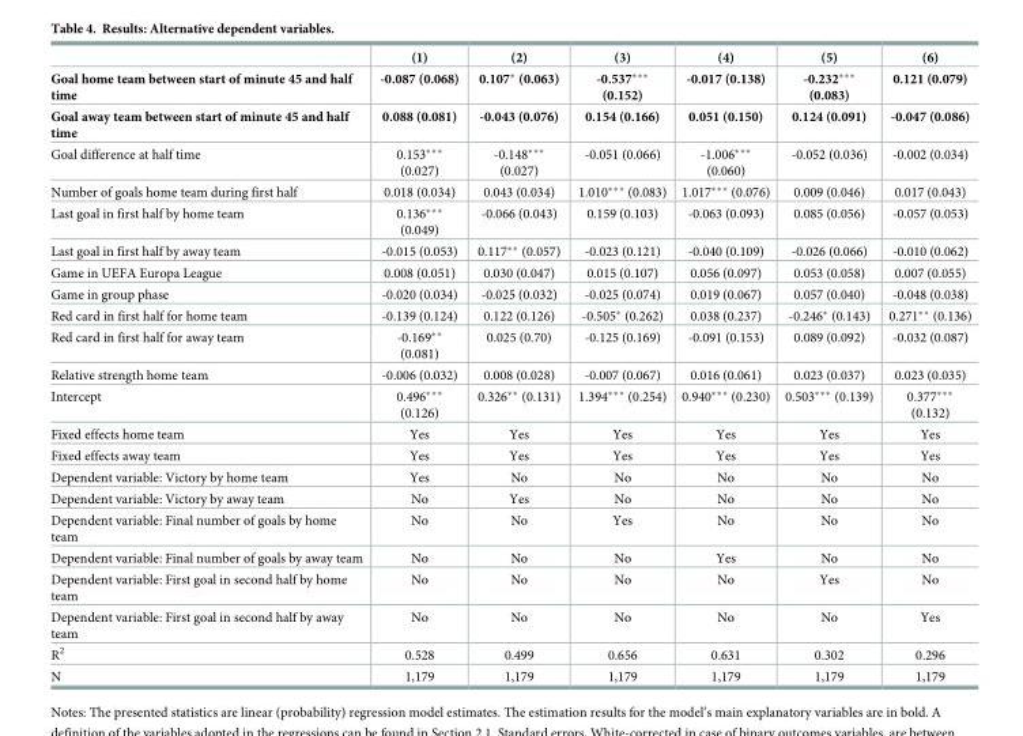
<table><thead><tr><td></td><td>(1)</td><td>(2)</td><td>(3)</td><td>(4)</td><td>(5)</td><td>(6)</td></tr></thead><tbody><tr><td>Goal home team between start of minute 45 and half time</td><td>-0.087 (0.068)</td><td>0.107* (0.063)</td><td>-0.537*** (0.152)</td><td>-0.017 (0.138)</td><td>-0.232*** (0.083)</td><td>0.121 (0.079)</td></tr><tr><td>Goal away team between start of minute 45 and half time</td><td>0.088 (0.081)</td><td>-0.043 (0.076)</td><td>0.154 (0.166)</td><td>0.051 (0.150)</td><td>0.124 (0.091)</td><td>-0.047 (0.086)</td></tr><tr><td>Goal difference at half time</td><td>0.153*** (0.027)</td><td>-0.148*** (0.027)</td><td>-0.051 (0.066)</td><td>-1.006*** (0.060)</td><td>-0.052 (0.036)</td><td>-0.002 (0.034)</td></tr><tr><td>Number of goals home team during first half</td><td>0.018 (0.034)</td><td>0.043 (0.034)</td><td>1.010*** (0.083)</td><td>1.017*** (0.076)</td><td>0.009 (0.046)</td><td>0.017 (0.043)</td></tr><tr><td>Last goal in first half by home team</td><td>0.136*** (0.049)</td><td>-0.066 (0.043)</td><td>0.159 (0.103)</td><td>-0.063 (0.093)</td><td>0.085 (0.056)</td><td>-0.057 (0.053)</td></tr><tr><td>Last goal in first half by away team</td><td>-0.015 (0.053)</td><td>0.117** (0.057)</td><td>-0.023 (0.121)</td><td>-0.040 (0.109)</td><td>-0.026 (0.066)</td><td>-0.010 (0.062)</td></tr><tr><td>Game in UEFA Europa League</td><td>0.008 (0.051)</td><td>0.030 (0.047)</td><td>0.015 (0.107)</td><td>0.056 (0.097)</td><td>0.053 (0.058)</td><td>0.007 (0.055)</td></tr><tr><td>Game in group phase</td><td>-0.020 (0.034)</td><td>-0.025 (0.032)</td><td>-0.025 (0.074)</td><td>0.019 (0.067)</td><td>0.057 (0.040)</td><td>-0.048 (0.038)</td></tr><tr><td>Red card in first half for home team</td><td>-0.139 (0.124)</td><td>0.122 (0.126)</td><td>-0.505* (0.262)</td><td>0.038 (0.237)</td><td>-0.246* (0.143)</td><td>0.271** (0.136)</td></tr><tr><td>Red card in first half for away team</td><td>-0.169** (0.081)</td><td>0.025 (0.70)</td><td>-0.125 (0.169)</td><td>-0.091 (0.153)</td><td>0.089 (0.092)</td><td>-0.032 (0.087)</td></tr><tr><td>Relative strength home team</td><td>-0.006 (0.032)</td><td>0.008 (0.028)</td><td>-0.007 (0.067)</td><td>0.016 (0.061)</td><td>0.023 (0.037)</td><td>0.023 (0.035)</td></tr><tr><td>Intercept</td><td>0.496*** (0.126)</td><td>0.326** (0.131)</td><td>1.394*** (0.254)</td><td>0.940*** (0.230)</td><td>0.503*** (0.139)</td><td>0.377*** (0.132)</td></tr><tr><td>Fixed effects home team</td><td>Yes</td><td>Yes</td><td>Yes</td><td>Yes</td><td>Yes</td><td>Yes</td></tr><tr><td>Fixed effects away team</td><td>Yes</td><td>Yes</td><td>Yes</td><td>Yes</td><td>Yes</td><td>Yes</td></tr><tr><td>Dependent variable: Victory by home team</td><td>Yes</td><td>No</td><td>No</td><td>No</td><td>No</td><td>No</td></tr><tr><td>Dependent variable: Victory by away team</td><td>No</td><td>Yes</td><td>No</td><td>No</td><td>No</td><td>No</td></tr><tr><td>Dependent variable: Final number of goals by home team</td><td>No</td><td>No</td><td>Yes</td><td>No</td><td>No</td><td>No</td></tr><tr><td>Dependent variable: Final number of goals by away team</td><td>No</td><td>No</td><td>No</td><td>Yes</td><td>No</td><td>No</td></tr><tr><td>Dependent variable: First goal in second half by home team</td><td>No</td><td>No</td><td>No</td><td>No</td><td>Yes</td><td>No</td></tr><tr><td>Dependent variable: First goal in second half by away team</td><td>No</td><td>No</td><td>No</td><td>No</td><td>No</td><td>Yes</td></tr><tr><td>R<sup>2</sup></td><td>0.528</td><td>0.499</td><td>0.656</td><td>0.631</td><td>0.302</td><td>0.296</td></tr><tr><td>N</td><td>1,179</td><td>1,179</td><td>1,179</td><td>1,179</td><td>1,179</td><td>1,179</td></tr></tbody></table>